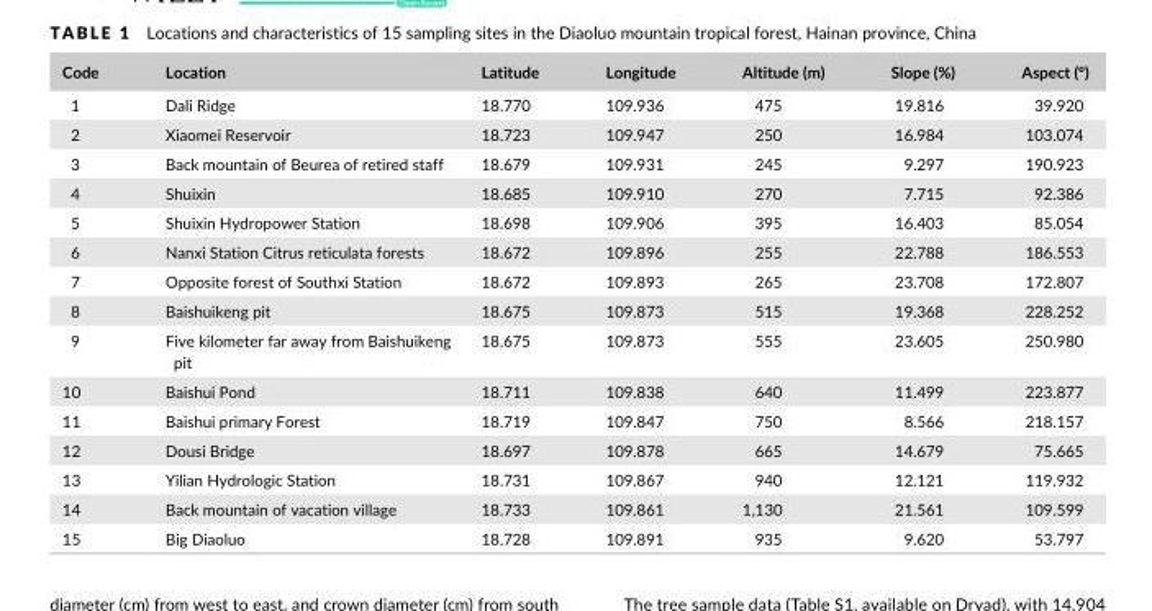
<table><thead><tr><td>Code</td><td>Location</td><td>Latitude</td><td>Longitude</td><td>Altitude (m)</td><td>Slope (%)</td><td>Aspect (°)</td></tr></thead><tbody><tr><td>1</td><td>Dali Ridge</td><td>18.770</td><td>109.936</td><td>475</td><td>19.816</td><td>39.920</td></tr><tr><td>2</td><td>Xiaomei Reservoir</td><td>18.723</td><td>109.947</td><td>250</td><td>16.984</td><td>103.074</td></tr><tr><td>3</td><td>Back mountain of Beurea of retired staff</td><td>18.679</td><td>109.931</td><td>245</td><td>9.297</td><td>190.923</td></tr><tr><td>4</td><td>Shuixin</td><td>18.685</td><td>109.910</td><td>270</td><td>7.715</td><td>92.386</td></tr><tr><td>5</td><td>Shuixin Hydropower Station</td><td>18.698</td><td>109.906</td><td>395</td><td>16.403</td><td>85.054</td></tr><tr><td>6</td><td>Nanxi Station Citrus reticulata forests</td><td>18.672</td><td>109.896</td><td>255</td><td>22.788</td><td>186.553</td></tr><tr><td>7</td><td>Opposite forest of Southxi Station</td><td>18.672</td><td>109.893</td><td>265</td><td>23.708</td><td>172.807</td></tr><tr><td>8</td><td>Baishuikeng pit</td><td>18.675</td><td>109.873</td><td>515</td><td>19.368</td><td>228.252</td></tr><tr><td>9</td><td>Five kilometer far away from Baishuikeng pit</td><td>18.675</td><td>109.873</td><td>555</td><td>23.605</td><td>250.980</td></tr><tr><td>10</td><td>Baishui Pond</td><td>18.711</td><td>109.838</td><td>640</td><td>11.499</td><td>223.877</td></tr><tr><td>11</td><td>Baishui primary Forest</td><td>18.719</td><td>109.847</td><td>750</td><td>8.566</td><td>218.157</td></tr><tr><td>12</td><td>Dousi Bridge</td><td>18.697</td><td>109.878</td><td>665</td><td>14.679</td><td>75.665</td></tr><tr><td>13</td><td>Yilian Hydrologic Station</td><td>18.731</td><td>109.867</td><td>940</td><td>12.121</td><td>119.932</td></tr><tr><td>14</td><td>Back mountain of vacation village</td><td>18.733</td><td>109.861</td><td>1,130</td><td>21.561</td><td>109.599</td></tr><tr><td>15</td><td>Big Diaoluo</td><td>18.728</td><td>109.891</td><td>935</td><td>9.620</td><td>53.797</td></tr></tbody></table>